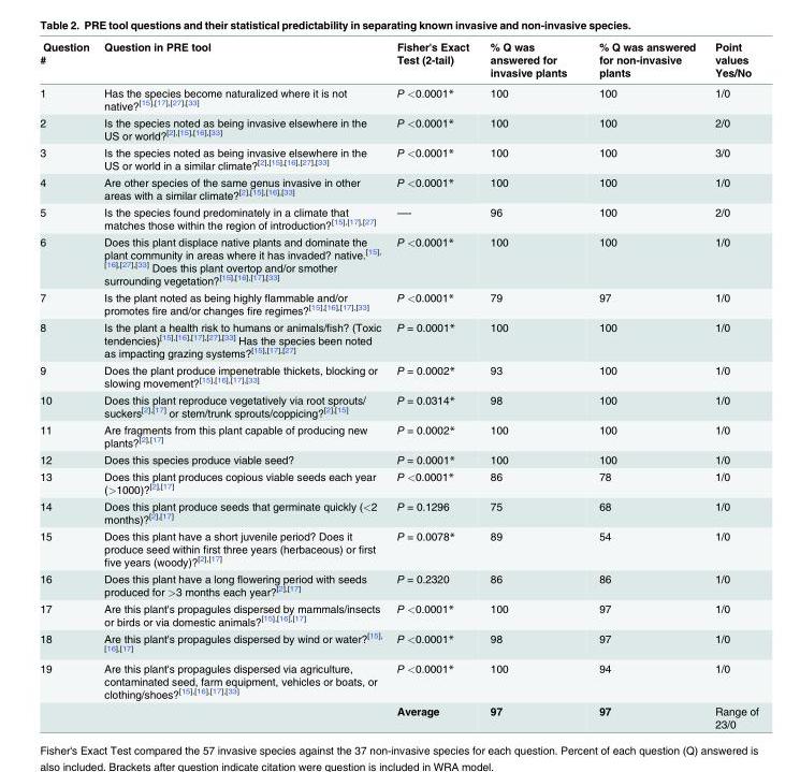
<table><thead><tr><td>Question #</td><td>Question in PRE tool</td><td>Fisher&#x27;s Exact Test (2-tail)</td><td>% Q was answered for invasive plants</td><td>% Q was answered for non-invasive plants</td><td>Point values Yes/No</td></tr></thead><tbody><tr><td>1</td><td>Has the species become naturalized where it is not native?<sup>[15],[17],[27],[33]</sup></td><td>P &lt;0.0001*</td><td>100</td><td>100</td><td>1/0</td></tr><tr><td>2</td><td>Is the species noted as being invasive elsewhere in the US or world?<sup>[2],[15],[16],[33]</sup></td><td>P &lt;0.0001*</td><td>100</td><td>100</td><td>2/0</td></tr><tr><td>3</td><td>Is the species noted as being invasive elsewhere in the US or world in a similar climate?<sup>[2],[15],[16],[27],[33]</sup></td><td>P &lt;0.0001*</td><td>100</td><td>100</td><td>3/0</td></tr><tr><td>4</td><td>Are other species of the same genus invasive in other areas with a similar climate?<sup>[2],[15],[16],[33]</sup></td><td>P &lt;0.0001*</td><td>100</td><td>100</td><td>1/0</td></tr><tr><td>5</td><td>Is the species found predominately in a climate that matches those within the region of introduction?<sup>[15],[17],[27]</sup></td><td>—-</td><td>96</td><td>100</td><td>2/0</td></tr><tr><td>6</td><td>Does this plant displace native plants and dominate the plant community in areas where it has invaded? native.<sup>[15], [16],[27],[33]</sup> Does this plant overtop and/or smother surrounding vegetation?<sup>[15],[16],[17],[33]</sup></td><td>P &lt;0.0001*</td><td>100</td><td>100</td><td>1/0</td></tr><tr><td>7</td><td>Is the plant noted as being highly flammable and/or promotes fire and/or changes fire regimes?<sup>[15],[16],[17],[33]</sup></td><td>P &lt;0.0001*</td><td>79</td><td>97</td><td>1/0</td></tr><tr><td>8</td><td>Is the plant a health risk to humans or animals/fish? (Toxic tendencies)<sup>[15],[16],[17],[27],[33]</sup> Has the species been noted as impacting grazing systems?<sup>[15],[17],[27]</sup></td><td>P = 0.0001*</td><td>100</td><td>100</td><td>1/0</td></tr><tr><td>9</td><td>Does the plant produce impenetrable thickets, blocking or slowing movement?<sup>[15],[16],[17],[33]</sup></td><td>P = 0.0002*</td><td>93</td><td>100</td><td>1/0</td></tr><tr><td>10</td><td>Does this plant reproduce vegetatively via root sprouts/ suckers<sup>[2],[17]</sup> or stem/trunk sprouts/coppicing?<sup>[2],[15]</sup></td><td>P = 0.0314*</td><td>98</td><td>100</td><td>1/0</td></tr><tr><td>11</td><td>Are fragments from this plant capable of producing new plants?<sup>[2],[17]</sup></td><td>P = 0.0002*</td><td>100</td><td>100</td><td>1/0</td></tr><tr><td>12</td><td>Does this species produce viable seed?</td><td>P = 0.0001*</td><td>100</td><td>100</td><td>1/0</td></tr><tr><td>13</td><td>Does this plant produces copious viable seeds each year (&gt;1000)?<sup>[2],[17]</sup></td><td>P &lt;0.0001*</td><td>86</td><td>78</td><td>1/0</td></tr><tr><td>14</td><td>Does this plant produce seeds that germinate quickly (&lt;2 months)?<sup>[2],[17]</sup></td><td>P = 0.1296</td><td>75</td><td>68</td><td>1/0</td></tr><tr><td>15</td><td>Does this plant have a short juvenile period? Does it produce seed within first three years (herbaceous) or first five years (woody)?<sup>[2],[17]</sup></td><td>P = 0.0078*</td><td>89</td><td>54</td><td>1/0</td></tr><tr><td>16</td><td>Does this plant have a long flowering period with seeds produced for &gt;3 months each year?<sup>[2],[17]</sup></td><td>P = 0.2320</td><td>86</td><td>86</td><td>1/0</td></tr><tr><td>17</td><td>Are this plant&#x27;s propagules dispersed by mammals/insects or birds or via domestic animals?<sup>[15],[16],[17]</sup></td><td>P &lt;0.0001*</td><td>100</td><td>97</td><td>1/0</td></tr><tr><td>18</td><td>Are this plant&#x27;s propagules dispersed by wind or water?<sup>[15], [16],[17]</sup></td><td>P &lt;0.0001*</td><td>98</td><td>97</td><td>1/0</td></tr><tr><td rowspan="2">19</td><td>Are this plant&#x27;s propagules dispersed via agriculture, contaminated seed, farm equipment, vehicles or boats, or clothing/shoes?<sup>[15],[16],[17],[33]</sup></td><td>P &lt;0.0001*</td><td>100</td><td>94</td><td>1/0</td></tr><tr><td></td><td>Average</td><td>97</td><td>97</td><td>Range of 23/0</td></tr></tbody></table>